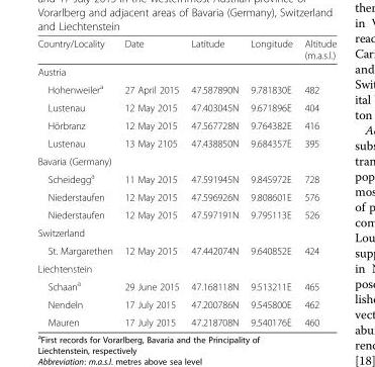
<table><thead><tr><td>Country/Locality</td><td>Date</td><td>Latitude</td><td>Longitude</td><td>Altitude (m.a.s.l.)</td></tr></thead><tbody><tr><td colspan="5">Austria</td></tr><tr><td>Hohenweiler<sup>a</sup></td><td>27 April 2015</td><td>47.587890N</td><td>9.781830E</td><td>482</td></tr><tr><td>Lustenau</td><td>12 May 2015</td><td>47.403045N</td><td>9.671896E</td><td>404</td></tr><tr><td>Hörbranz</td><td>12 May 2015</td><td>47.567728N</td><td>9.764382E</td><td>416</td></tr><tr><td>Lustenau</td><td>13 May 2105</td><td>47.438850N</td><td>9.684357E</td><td>395</td></tr><tr><td colspan="5">Bavaria (Germany)</td></tr><tr><td>Scheidegg<sup>a</sup></td><td>11 May 2015</td><td>47.591945N</td><td>9.845972E</td><td>728</td></tr><tr><td>Niederstaufen</td><td>12 May 2015</td><td>47.596926N</td><td>9.808601E</td><td>576</td></tr><tr><td>Niederstaufen</td><td>12 May 2015</td><td>47.597191N</td><td>9.795113E</td><td>526</td></tr><tr><td colspan="5">Switzerland</td></tr><tr><td>St. Margarethen</td><td>12 May 2015</td><td>47.442074N</td><td>9.640852E</td><td>424</td></tr><tr><td colspan="5">Liechtenstein</td></tr><tr><td>Schaan<sup>a</sup></td><td>29 June 2015</td><td>47.168118N</td><td>9.513211E</td><td>465</td></tr><tr><td>Nendeln</td><td>17 July 2015</td><td>47.200786N</td><td>9.545800E</td><td>462</td></tr><tr><td>Mauren</td><td>17 July 2015</td><td>47.218708N</td><td>9.540176E</td><td>460</td></tr></tbody></table>